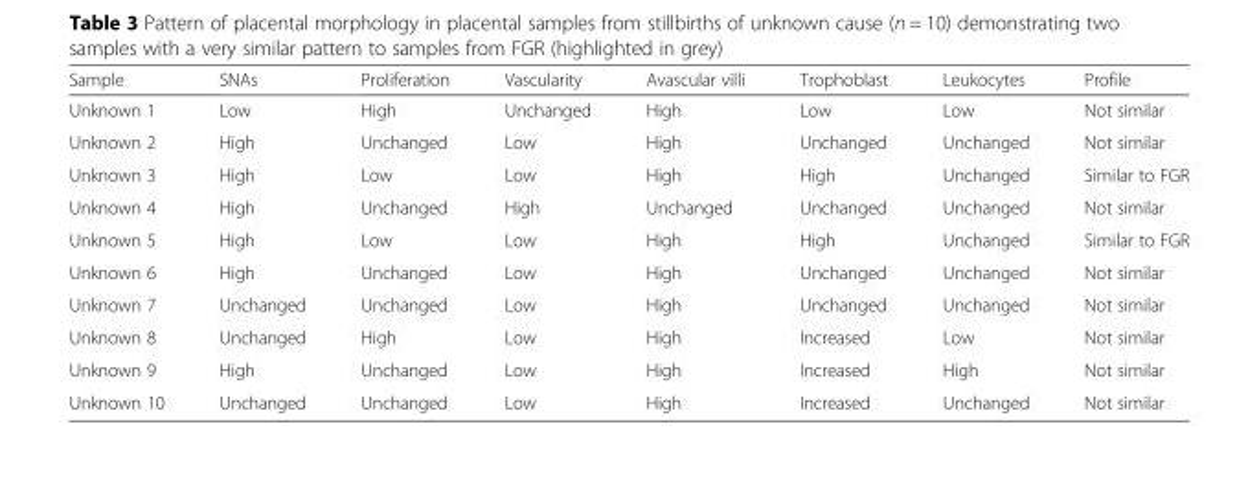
<table><thead><tr><td>Sample</td><td>SNAs</td><td>Proliferation</td><td>Vascularity</td><td>Avascular villi</td><td>Trophoblast</td><td>Leukocytes</td><td>Profile</td></tr></thead><tbody><tr><td>Unknown 1</td><td>Low</td><td>High</td><td>Unchanged</td><td>High</td><td>Low</td><td>Low</td><td>Not similar</td></tr><tr><td>Unknown 2</td><td>High</td><td>Unchanged</td><td>Low</td><td>High</td><td>Unchanged</td><td>Unchanged</td><td>Not similar</td></tr><tr><td>Unknown 3</td><td>High</td><td>Low</td><td>Low</td><td>High</td><td>High</td><td>Unchanged</td><td>Similar to FGR</td></tr><tr><td>Unknown 4</td><td>High</td><td>Unchanged</td><td>High</td><td>Unchanged</td><td>Unchanged</td><td>Unchanged</td><td>Not similar</td></tr><tr><td>Unknown 5</td><td>High</td><td>Low</td><td>Low</td><td>High</td><td>High</td><td>Unchanged</td><td>Similar to FGR</td></tr><tr><td>Unknown 6</td><td>High</td><td>Unchanged</td><td>Low</td><td>High</td><td>Unchanged</td><td>Unchanged</td><td>Not similar</td></tr><tr><td>Unknown 7</td><td>Unchanged</td><td>Unchanged</td><td>Low</td><td>High</td><td>Unchanged</td><td>Unchanged</td><td>Not similar</td></tr><tr><td>Unknown 8</td><td>Unchanged</td><td>High</td><td>Low</td><td>High</td><td>Increased</td><td>Low</td><td>Not similar</td></tr><tr><td>Unknown 9</td><td>High</td><td>Unchanged</td><td>Low</td><td>High</td><td>Increased</td><td>High</td><td>Not similar</td></tr><tr><td>Unknown 10</td><td>Unchanged</td><td>Unchanged</td><td>Low</td><td>High</td><td>Increased</td><td>Unchanged</td><td>Not similar</td></tr></tbody></table>